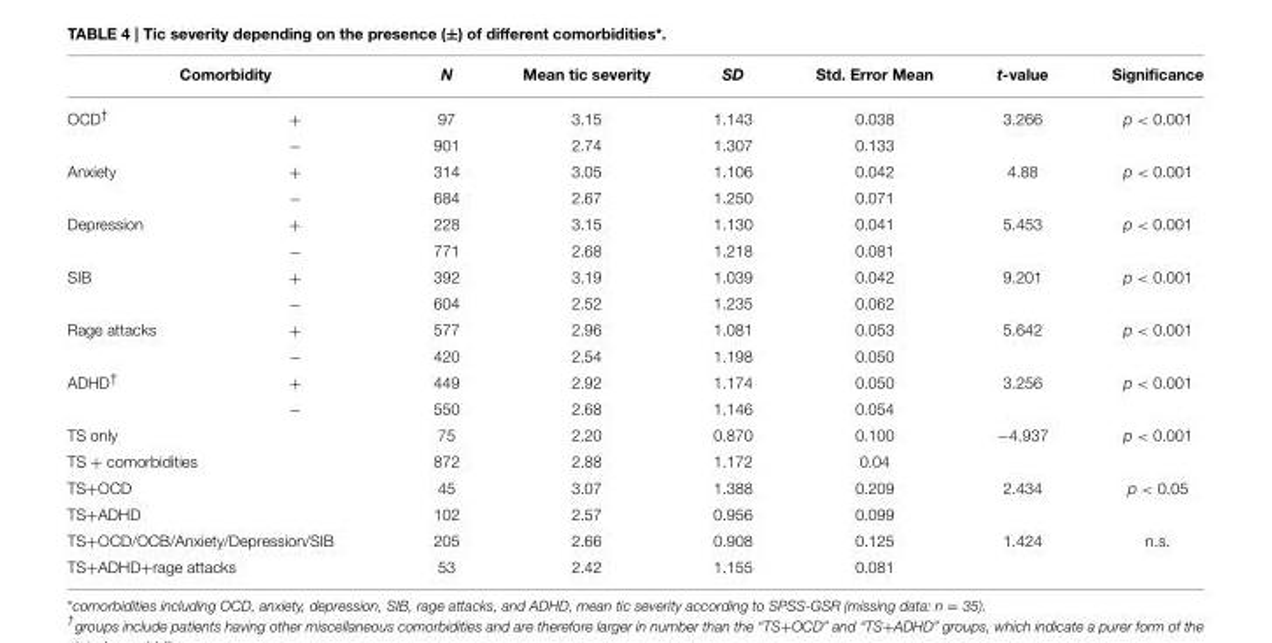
<table><thead><tr><td colspan="2">Comorbidity</td><td rowspan="2">N 97</td><td rowspan="2">Mean tic severity 3.15</td><td rowspan="2">SD 1.143</td><td rowspan="2">Std. Error Mean 0.038</td><td rowspan="2">t-value 3.266</td><td rowspan="2">Significance p &lt; 0.001</td></tr><tr><td>OCD<sup>†</sup></td><td>+</td></tr></thead><tbody><tr><td></td><td>−</td><td>901</td><td>2.74</td><td>1.307</td><td>0.133</td><td></td><td></td></tr><tr><td rowspan="2">Anxiety</td><td>+</td><td>314</td><td>3.05</td><td>1.106</td><td>0.042</td><td>4.88</td><td>p &lt; 0.001</td></tr><tr><td>−</td><td>684</td><td>2.67</td><td>1.250</td><td>0.071</td><td></td><td></td></tr><tr><td rowspan="2">Depression</td><td>+</td><td>228</td><td>3.15</td><td>1.130</td><td>0.041</td><td>5.453</td><td>p &lt; 0.001</td></tr><tr><td>−</td><td>771</td><td>2.68</td><td>1.218</td><td>0.081</td><td></td><td></td></tr><tr><td rowspan="2">SIB</td><td>+</td><td>392</td><td>3.19</td><td>1.039</td><td>0.042</td><td>9.201</td><td>p &lt; 0.001</td></tr><tr><td>−</td><td>604</td><td>2.52</td><td>1.235</td><td>0.062</td><td></td><td></td></tr><tr><td rowspan="2">Rage attacks</td><td>+</td><td>577</td><td>2.96</td><td>1.081</td><td>0.053</td><td>5.642</td><td>p &lt; 0.001</td></tr><tr><td>−</td><td>420</td><td>2.54</td><td>1.198</td><td>0.050</td><td></td><td></td></tr><tr><td rowspan="2">ADHD<sup>†</sup></td><td>+</td><td>449</td><td>2.92</td><td>1.174</td><td>0.050</td><td>3.256</td><td>p &lt; 0.001</td></tr><tr><td>−</td><td>550</td><td>2.68</td><td>1.146</td><td>0.054</td><td></td><td></td></tr><tr><td colspan="2">TS only</td><td>75</td><td>2.20</td><td>0.870</td><td>0.100</td><td>−4.937</td><td>p &lt; 0.001</td></tr><tr><td colspan="2">TS + comorbidities</td><td>872</td><td>2.88</td><td>1.172</td><td>0.04</td><td></td><td></td></tr><tr><td colspan="2">TS+OCD</td><td>45</td><td>3.07</td><td>1.388</td><td>0.209</td><td>2.434</td><td>p &lt; 0.05</td></tr><tr><td colspan="2">TS+ADHD</td><td>102</td><td>2.57</td><td>0.956</td><td>0.099</td><td></td><td></td></tr><tr><td colspan="2">TS+OCD/OCB/Anxiety/Depression/SIB</td><td>205</td><td>2.66</td><td>0.908</td><td>0.125</td><td>1.424</td><td>n.s.</td></tr><tr><td colspan="2">TS+ADHD+rage attacks</td><td>53</td><td>2.42</td><td>1.155</td><td>0.081</td><td></td><td></td></tr></tbody></table>